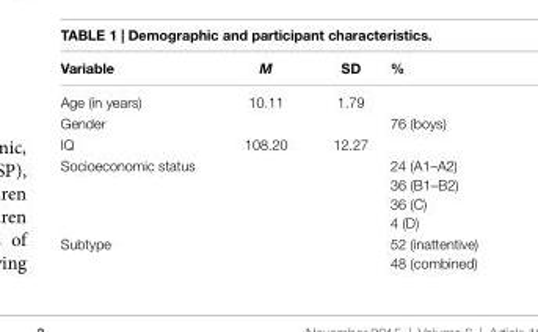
<table><thead><tr><td>Variable</td><td>M</td><td>sD</td><td>%</td></tr></thead><tbody><tr><td>Age (in years)</td><td>10.11</td><td>1.79</td><td></td></tr><tr><td>Gender</td><td></td><td></td><td>76 (boys)</td></tr><tr><td>IQ</td><td>108.20</td><td>12.27</td><td></td></tr><tr><td rowspan="4">Socioeconomic status</td><td rowspan="4"></td><td rowspan="4"></td><td>24 (A1–A2)</td></tr><tr><td>36 (B1–B2)</td></tr><tr><td>36 (C)</td></tr><tr><td>4 (D)</td></tr><tr><td rowspan="2">Subtype</td><td rowspan="2"></td><td rowspan="2"></td><td>52 (inattentive)</td></tr><tr><td>48 (combined)</td></tr></tbody></table>